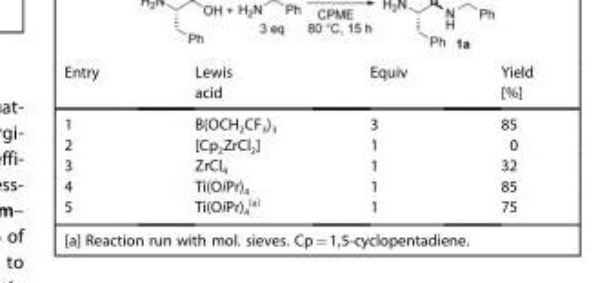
<table><thead><tr><td>Entry</td><td>Lewis acid</td><td>Equiv</td><td>Yield [%]</td></tr></thead><tbody><tr><td>1</td><td>B(OCH<sub>2</sub>CF<sub>3</sub>)<sub>3</sub></td><td>3</td><td>85</td></tr><tr><td>2</td><td>[Cp<sub>2</sub>ZrCl<sub>2</sub>]</td><td>1</td><td>0</td></tr><tr><td>3</td><td>ZrCl<sub>4</sub></td><td>1</td><td>32</td></tr><tr><td>4</td><td>Ti(OiPr)<sub>4</sub></td><td>1</td><td>85</td></tr><tr><td>5</td><td>Ti(OiPr)<sub>4</sub> <sup>[a]</sup></td><td>1</td><td>75</td></tr></tbody></table>